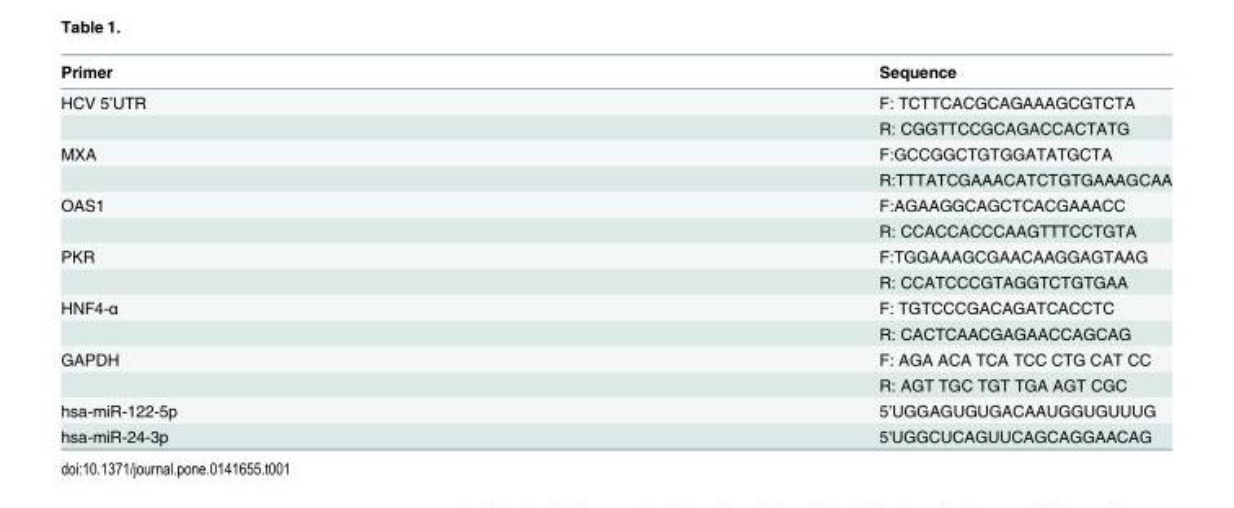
<table><thead><tr><td>Primer</td><td>Sequence</td></tr></thead><tbody><tr><td rowspan="2">HCV 5’UTR</td><td>F: TCTTCACGCAGAAAGCGTCTA</td></tr><tr><td>R: CGGTTCCGCAGACCACTATG</td></tr><tr><td rowspan="2">MXA</td><td>F:GCCGGCTGTGGATATGCTA</td></tr><tr><td>R:TTTATCGAAACATCTGTGAAAGCAA</td></tr><tr><td rowspan="2">OAS1</td><td>F:AGAAGGCAGCTCACGAAACC</td></tr><tr><td>R: CCACCACCCAAGTTTCCTGTA</td></tr><tr><td rowspan="2">PKR</td><td>F:TGGAAAGCGAACAAGGAGTAAG</td></tr><tr><td>R: CCATCCCGTAGGTCTGTGAA</td></tr><tr><td rowspan="2">HNF4-α</td><td>F: TGTCCCGACAGATCACCTC</td></tr><tr><td>R: CACTCAACGAGAACCAGCAG</td></tr><tr><td rowspan="2">GAPDH</td><td>F: AGA ACA TCA TCC CTG CAT CC</td></tr><tr><td>R: AGT TGC TGT TGA AGT CGC</td></tr><tr><td>hsa-miR-122-5p</td><td>5’UGGAGUGUGACAAUGGUGUUUG</td></tr><tr><td>hsa-miR-24-3p</td><td>5&#x27;UGGCUCAGUUCAGCAGGAACAG</td></tr></tbody></table>